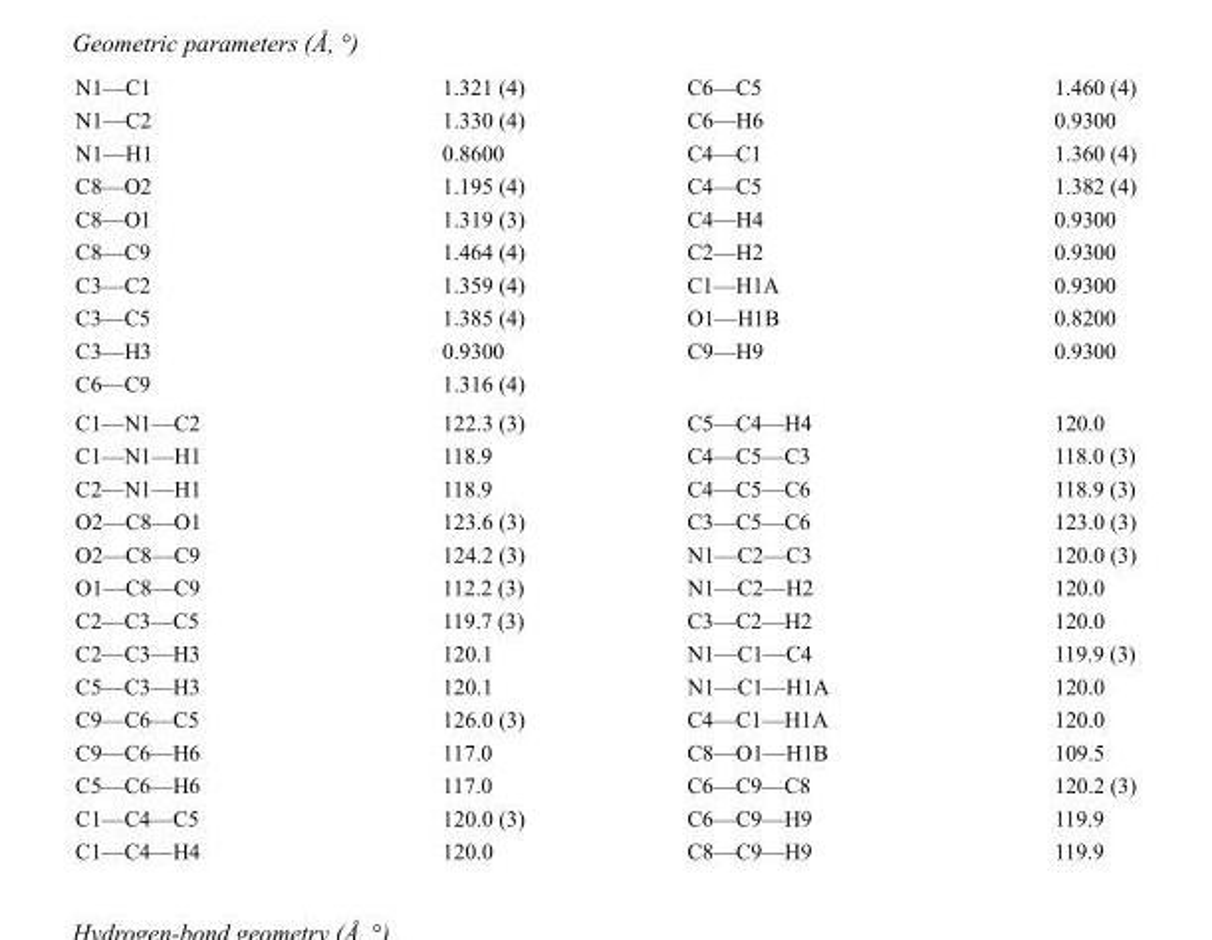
<table><tbody><tr><td>N1—C1</td><td>1.321 (4)</td><td>C6—C5</td><td>1.460 (4)</td></tr><tr><td>N1—C2</td><td>1.330 (4)</td><td>C6—H6</td><td>0.9300</td></tr><tr><td>N1—H1</td><td>0.8600</td><td>C4—C1</td><td>1.360 (4)</td></tr><tr><td>C8—O2</td><td>1.195 (4)</td><td>C4—C5</td><td>1.382 (4)</td></tr><tr><td>C8—O1</td><td>1.319 (3)</td><td>C4—H4</td><td>0.9300</td></tr><tr><td>C8—C9</td><td>1.464 (4)</td><td>C2—H2</td><td>0.9300</td></tr><tr><td>C3—C2</td><td>1.359 (4)</td><td>C1—H1A</td><td>0.9300</td></tr><tr><td>C3—C5</td><td>1.385 (4)</td><td>O1—H1B</td><td>0.8200</td></tr><tr><td>C3—H3</td><td>0.9300</td><td>C9—H9</td><td>0.9300</td></tr><tr><td>C6—C9</td><td>1.316 (4)</td><td></td><td></td></tr><tr><td>C1—N1—C2</td><td>122.3 (3)</td><td>C5—C4—H4</td><td>120.0</td></tr><tr><td>C1—N1—H1</td><td>118.9</td><td>C4—C5—C3</td><td>118.0 (3)</td></tr><tr><td>C2—N1—H1</td><td>118.9</td><td>C4—C5—C6</td><td>118.9 (3)</td></tr><tr><td>O2—C8—O1</td><td>123.6 (3)</td><td>C3—C5—C6</td><td>123.0 (3)</td></tr><tr><td>O2—C8—C9</td><td>124.2 (3)</td><td>N1—C2—C3</td><td>120.0 (3)</td></tr><tr><td>O1—C8—C9</td><td>112.2 (3)</td><td>N1—C2—H2</td><td>120.0</td></tr><tr><td>C2—C3—C5</td><td>119.7 (3)</td><td>C3—C2—H2</td><td>120.0</td></tr><tr><td>C2—C3—H3</td><td>120.1</td><td>N1—C1—C4</td><td>119.9 (3)</td></tr><tr><td>C5—C3—H3</td><td>120.1</td><td>N1—C1—H1A</td><td>120.0</td></tr><tr><td>C9—C6—C5</td><td>126.0 (3)</td><td>C4—C1—H1A</td><td>120.0</td></tr><tr><td>C9—C6—H6</td><td>117.0</td><td>C8—O1—H1B</td><td>109.5</td></tr><tr><td>C5—C6—H6</td><td>117.0</td><td>C6—C9—C8</td><td>120.2 (3)</td></tr><tr><td>C1—C4—C5</td><td>120.0 (3)</td><td>C6—C9—H9</td><td>119.9</td></tr><tr><td>C1—C4—H4</td><td>120.0</td><td>C8—C9—H9</td><td>119.9</td></tr></tbody></table>